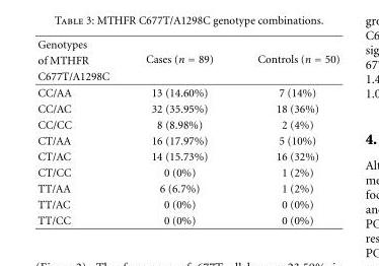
<table><thead><tr><td rowspan="3">Genotypes of MTHFR C677T/A1298C</td><td rowspan="3">Cases (n = 89)</td><td rowspan="3">Controls (n = 50)</td></tr><tr></tr><tr></tr></thead><tbody><tr><td>CC/AA</td><td>13 (14.60%)</td><td>7 (14%)</td></tr><tr><td>CC/AC</td><td>32 (35.95%)</td><td>18 (36%)</td></tr><tr><td>CC/CC</td><td>8 (8.98%)</td><td>2 (4%)</td></tr><tr><td>CT/AA</td><td>16 (17.97%)</td><td>5 (10%)</td></tr><tr><td>CT/AC</td><td>14 (15.73%)</td><td>16 (32%)</td></tr><tr><td>CT/CC</td><td>0 (0%)</td><td>1 (2%)</td></tr><tr><td>TT/AA</td><td>6 (6.7%)</td><td>1 (2%)</td></tr><tr><td>TT/AC</td><td>0 (0%)</td><td>0 (0%)</td></tr><tr><td>TT/CC</td><td>0 (0%)</td><td>0 (0%)</td></tr></tbody></table>